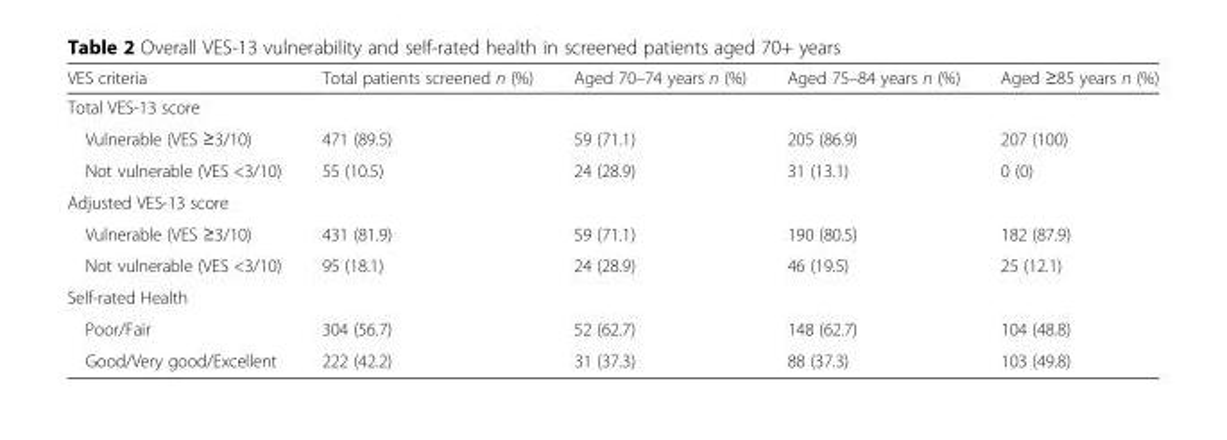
<table><thead><tr><td>VES criteria</td><td>Total patients screened n (%)</td><td>Aged 70–74 years n (%)</td><td>Aged 75–84 years n (%)</td><td>Aged ≥85 years n (%)</td></tr></thead><tbody><tr><td colspan="5">Total VES-13 score</td></tr><tr><td>Vulnerable (VES ≥3/10)</td><td>471 (89.5)</td><td>59 (71.1)</td><td>205 (86.9)</td><td>207 (100)</td></tr><tr><td>Not vulnerable (VES &lt;3/10)</td><td>55 (10.5)</td><td>24 (28.9)</td><td>31 (13.1)</td><td>0 (0)</td></tr><tr><td colspan="5">Adjusted VES-13 score</td></tr><tr><td>Vulnerable (VES ≥3/10)</td><td>431 (81.9)</td><td>59 (71.1)</td><td>190 (80.5)</td><td>182 (87.9)</td></tr><tr><td>Not vulnerable (VES &lt;3/10)</td><td>95 (18.1)</td><td>24 (28.9)</td><td>46 (19.5)</td><td>25 (12.1)</td></tr><tr><td colspan="5">Self-rated Health</td></tr><tr><td>Poor/Fair</td><td>304 (56.7)</td><td>52 (62.7)</td><td>148 (62.7)</td><td>104 (48.8)</td></tr><tr><td>Good/Very good/Excellent</td><td>222 (42.2)</td><td>31 (37.3)</td><td>88 (37.3)</td><td>103 (49.8)</td></tr></tbody></table>